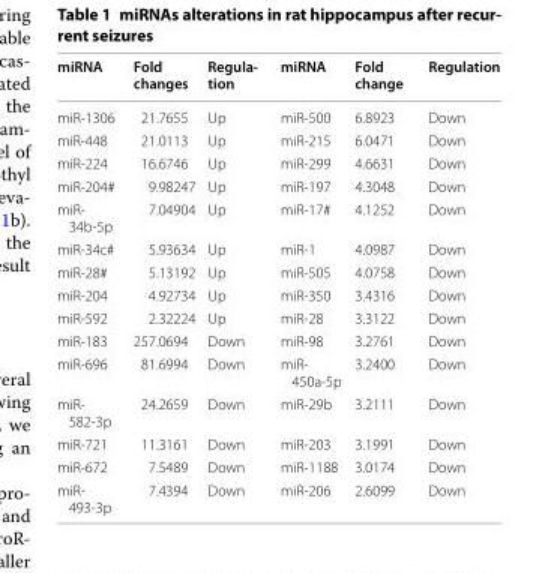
<table><thead><tr><td>miRNA</td><td>Fold changes</td><td>Regula‑ tion</td><td>miRNA</td><td>Fold change</td><td>Regulation</td></tr></thead><tbody><tr><td>miR-1306</td><td>21.7655</td><td>Up</td><td>miR-500</td><td>6.8923</td><td>Down</td></tr><tr><td>miR-448</td><td>21.0113</td><td>Up</td><td>miR-215</td><td>6.0471</td><td>Down</td></tr><tr><td>miR-224</td><td>16.6746</td><td>Up</td><td>miR-299</td><td>4.6631</td><td>Down</td></tr><tr><td>miR-204#</td><td>9.98247</td><td>Up</td><td>miR-197</td><td>4.3048</td><td>Down</td></tr><tr><td>miR- 34b-5p</td><td>7.04904</td><td>Up</td><td>miR-17#</td><td>4.1252</td><td>Down</td></tr><tr><td>miR-34c#</td><td>5.93634</td><td>Up</td><td>miR-1</td><td>4.0987</td><td>Down</td></tr><tr><td>miR-28#</td><td>5.13192</td><td>Up</td><td>miR-505</td><td>4.0758</td><td>Down</td></tr><tr><td>miR-204</td><td>4.92734</td><td>Up</td><td>miR-350</td><td>3.4316</td><td>Down</td></tr><tr><td>miR-592</td><td>2.32224</td><td>Up</td><td>miR-28</td><td>3.3122</td><td>Down</td></tr><tr><td>miR-183</td><td>257.0694</td><td>Down</td><td>miR-98</td><td>3.2761</td><td>Down</td></tr><tr><td>miR-696</td><td>81.6994</td><td>Down</td><td>miR- 450a-5p</td><td>3.2400</td><td>Down</td></tr><tr><td>miR- 582-3p</td><td>24.2659</td><td>Down</td><td>miR-29b</td><td>3.2111</td><td>Down</td></tr><tr><td>miR-721</td><td>11.3161</td><td>Down</td><td>miR-203</td><td>3.1991</td><td>Down</td></tr><tr><td>miR-672</td><td>7.5489</td><td>Down</td><td>miR-1188</td><td>3.0174</td><td>Down</td></tr><tr><td>miR- 493-3p</td><td>7.4394</td><td>Down</td><td>miR-206</td><td>2.6099</td><td>Down</td></tr></tbody></table>